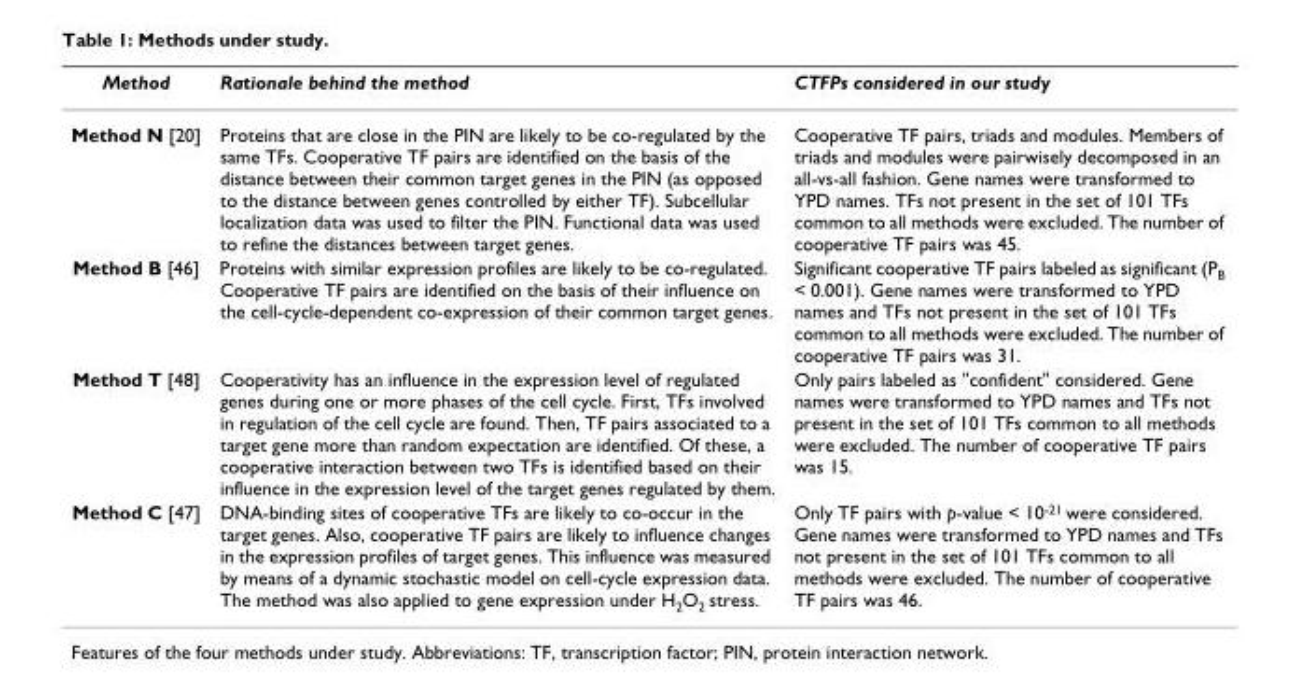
<table><thead><tr><td>Method</td><td>Rationale behind the method</td><td>CTFPs considered in our study</td></tr></thead><tbody><tr><td>Method N [20]</td><td>Proteins that are close in the PIN are likely to be co-regulated by the same TFs. Cooperative TF pairs are identified on the basis of the distance between their common target genes in the PIN (as opposed to the distance between genes controlled by either TF). Subcellular localization data was used to filter the PIN. Functional data was used to refine the distances between target genes.</td><td>Cooperative TF pairs, triads and modules. Members of triads and modules were pairwisely decomposed in an all-vs-all fashion. Gene names were transformed to YPD names. TFs not present in the set of 101 TFs common to all methods were excluded. The number of cooperative TF pairs was 45.</td></tr><tr><td>Method B [46]</td><td>Proteins with similar expression profiles are likely to be co-regulated. Cooperative TF pairs are identified on the basis of their influence on the cell-cycle-dependent co-expression of their common target genes.</td><td>Significant cooperative TF pairs labeled as significant (P<sub>B</sub> &lt; 0.001). Gene names were transformed to YPD names and TFs not present in the set of 101 TFs common to all methods were excluded. The number of cooperative TF pairs was 31.</td></tr><tr><td>Method T [48]</td><td>Cooperativity has an influence in the expression level of regulated genes during one or more phases of the cell cycle. First, TFs involved in regulation of the cell cycle are found. Then, TF pairs associated to a target gene more than random expectation are identified. Of these, a cooperative interaction between two TFs is identified based on their influence in the expression level of the target genes regulated by them.</td><td>Only pairs labeled as &quot;confident&quot; considered. Gene names were transformed to YPD names and TFs not present in the set of 101 TFs common to all methods were excluded. The number of cooperative TF pairs was 15.</td></tr><tr><td>Method C [47]</td><td>DNA-binding sites of cooperative TFs are likely to co-occur in the target genes. Also, cooperative TF pairs are likely to influence changes in the expression profiles of target genes. This influence was measured by means of a dynamic stochastic model on cell-cycle expression data. The method was also applied to gene expression under H<sub>2</sub>O<sub>2</sub> stress.</td><td>Only TF pairs with p-value &lt; 10<sup>-21</sup> were considered. Gene names were transformed to YPD names and TFs not present in the set of 101 TFs common to all methods were excluded. The number of cooperative TF pairs was 46.</td></tr></tbody></table>